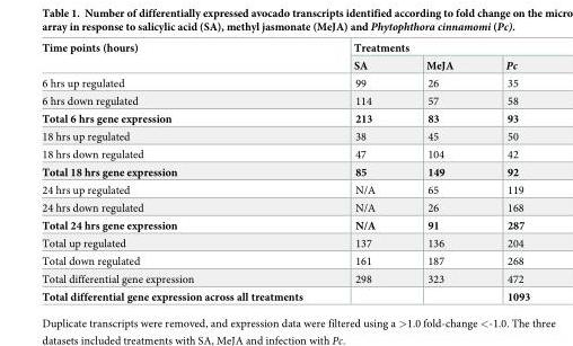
<table><thead><tr><td rowspan="2">Time points (hours)</td><td colspan="3">Treatments</td></tr><tr><td>SA</td><td>MeJA</td><td>Pc</td></tr></thead><tbody><tr><td>6 hrs up regulated</td><td>99</td><td>26</td><td>35</td></tr><tr><td>6 hrs down regulated</td><td>114</td><td>57</td><td>58</td></tr><tr><td>Total 6 hrs gene expression</td><td>213</td><td>83</td><td>93</td></tr><tr><td>18 hrs up regulated</td><td>38</td><td>45</td><td>50</td></tr><tr><td>18 hrs down regulated</td><td>47</td><td>104</td><td>42</td></tr><tr><td>Total 18 hrs gene expression</td><td>85</td><td>149</td><td>92</td></tr><tr><td>24 hrs up regulated</td><td>N/A</td><td>65</td><td>119</td></tr><tr><td>24 hrs down regulated</td><td>N/A</td><td>26</td><td>168</td></tr><tr><td>Total 24 hrs gene expression</td><td>N/A</td><td>91</td><td>287</td></tr><tr><td>Total up regulated</td><td>137</td><td>136</td><td>204</td></tr><tr><td>Total down regulated</td><td>161</td><td>187</td><td>268</td></tr><tr><td>Total differential gene expression</td><td>298</td><td>323</td><td>472</td></tr><tr><td>Total differential gene expression across all treatments</td><td></td><td></td><td>1093</td></tr></tbody></table>